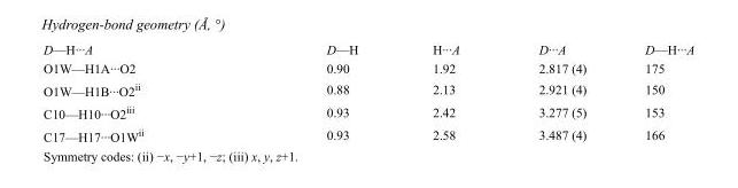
<table><tbody><tr><td>D—H···A</td><td>D—H</td><td>H···A</td><td>D···A</td><td>D—H···A</td></tr><tr><td>O1W—H1A···O2</td><td>0.90</td><td>1.92</td><td>2.817 (4)</td><td>175</td></tr><tr><td>O1W—H1B···O2<sup>ii</sup></td><td>0.88</td><td>2.13</td><td>2.921 (4)</td><td>150</td></tr><tr><td>C10—H10···O2<sup>iii</sup></td><td>0.93</td><td>2.42</td><td>3.277 (5)</td><td>153</td></tr><tr><td>C17—H17···O1W<sup>ii</sup></td><td>0.93</td><td>2.58</td><td>3.487 (4)</td><td>166</td></tr></tbody></table>